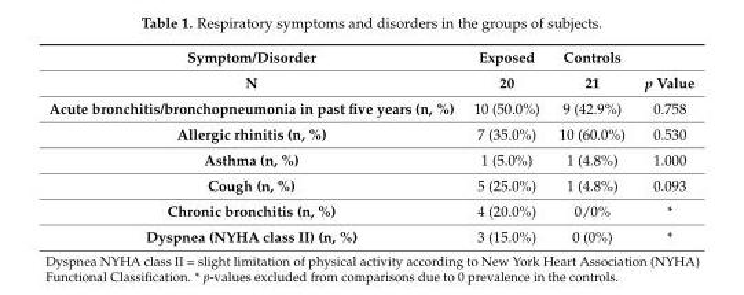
<table><thead><tr><td rowspan="2">Symptom/Disorder N</td><td rowspan="2">Exposed 20</td><td rowspan="2">Controls 21</td><td rowspan="2">p Value</td></tr><tr></tr></thead><tbody><tr><td>Acute bronchitis/bronchopneumonia in past five years (n, %)</td><td>10 (50.0%)</td><td>9 (42.9%)</td><td>0.758</td></tr><tr><td>Allergic rhinitis (n, %)</td><td>7 (35.0%)</td><td>10 (60.0%)</td><td>0.530</td></tr><tr><td>Asthma (n, %)</td><td>1 (5.0%)</td><td>1 (4.8%)</td><td>1.000</td></tr><tr><td>Cough (n, %)</td><td>5 (25.0%)</td><td>1 (4.8%)</td><td>0.093</td></tr><tr><td>Chronic bronchitis (n, %)</td><td>4 (20.0%)</td><td>0/0%</td><td>*</td></tr><tr><td>Dyspnea (NYHA class II) (n, %)</td><td>3 (15.0%)</td><td>0 (0%)</td><td>*</td></tr></tbody></table>